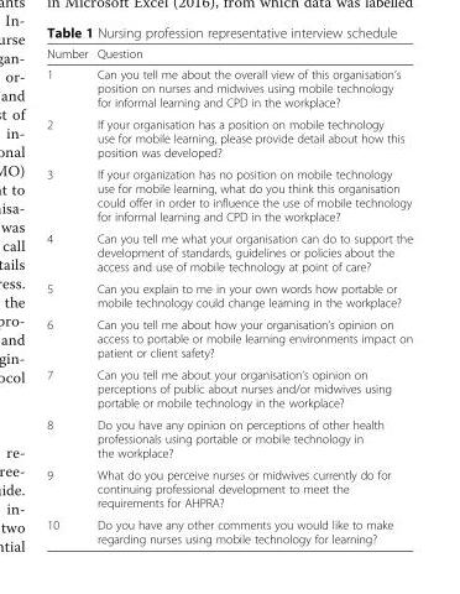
<table><thead><tr><td>Number</td><td>Question</td></tr></thead><tbody><tr><td>1</td><td>Can you tell me about the overall view of this organisation’s position on nurses and midwives using mobile technology for informal learning and CPD in the workplace?</td></tr><tr><td>2</td><td>If your organisation has a position on mobile technology use for mobile learning, please provide detail about how this position was developed?</td></tr><tr><td>3</td><td>If your organization has no position on mobile technology use for mobile learning, what do you think this organisation could offer in order to influence the use of mobile technology for informal learning and CPD in the workplace?</td></tr><tr><td>4</td><td>Can you tell me what your organisation can do to support the development of standards, guidelines or policies about the access and use of mobile technology at point of care?</td></tr><tr><td>5</td><td>Can you explain to me in your own words how portable or mobile technology could change learning in the workplace?</td></tr><tr><td>6</td><td>Can you tell me about how your organisation’s opinion on access to portable or mobile learning environments impact on patient or client safety?</td></tr><tr><td>7</td><td>Can you tell me about your organisation’s opinion on perceptions of public about nurses and/or midwives using portable or mobile technology in the workplace?</td></tr><tr><td>8</td><td>Do you have any opinion on perceptions of other health professionals using portable or mobile technology in the workplace?</td></tr><tr><td>9</td><td>What do you perceive nurses or midwives currently do for continuing professional development to meet the requirements for AHPRA?</td></tr><tr><td>10</td><td>Do you have any other comments you would like to make regarding nurses using mobile technology for learning?</td></tr></tbody></table>